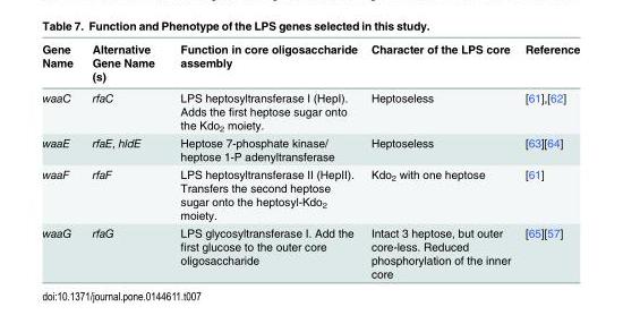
<table><thead><tr><td>Gene Name</td><td>Alternative Gene Name (s)</td><td>Function in core oligosaccharide assembly</td><td>Character of the LPS core</td><td>Reference</td></tr></thead><tbody><tr><td>waaC</td><td>rfaC</td><td>LPS heptosyltransferase I (HepI). Adds the first heptose sugar onto the Kdo<sub>2</sub> moiety.</td><td>Heptoseless</td><td>[61],[62]</td></tr><tr><td>waaE</td><td>rfaE, hldE</td><td>Heptose 7-phosphate kinase/ heptose 1-P adenyltransferase</td><td>Heptoseless</td><td>[63][64]</td></tr><tr><td>waaF</td><td>rfaF</td><td>LPS heptosyltransferase II (HepII). Transfers the second heptose sugar onto the heptosyl-Kdo<sub>2</sub> moiety.</td><td>Kdo<sub>2</sub> with one heptose</td><td>[61]</td></tr><tr><td>waaG</td><td>rfaG</td><td>LPS glycosyltransferase I. Add the first glucose to the outer core oligosaccharide</td><td>Intact 3 heptose, but outer core-less. Reduced phosphorylation of the inner core</td><td>[65][57]</td></tr></tbody></table>